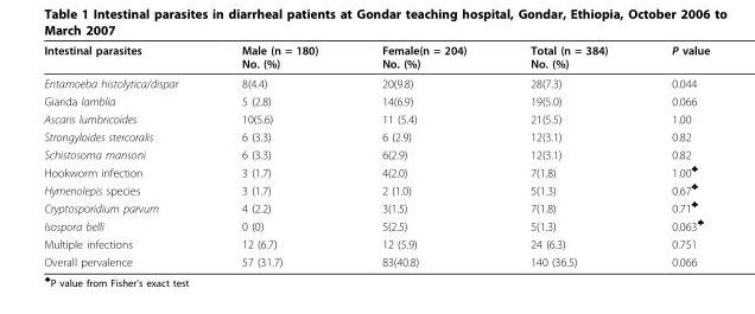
<table><thead><tr><td>Intestinal parasites</td><td>Male (n = 180) No. (%)</td><td>Female(n = 204) No. (%)</td><td>Total (n = 384) No. (%)</td><td>P value</td></tr></thead><tbody><tr><td>Entamoeba histolytica/dispar</td><td>8(4.4)</td><td>20(9.8)</td><td>28(7.3)</td><td>0.044</td></tr><tr><td>Giarida lamblia</td><td>5 (2.8)</td><td>14(6.9)</td><td>19(5.0)</td><td>0.066</td></tr><tr><td>Ascaris lumbricoides</td><td>10(5.6)</td><td>11 (5.4)</td><td>21(5.5)</td><td>1.00</td></tr><tr><td>Strongyloides stercoralis</td><td>6 (3.3)</td><td>6 (2.9)</td><td>12(3.1)</td><td>0.82</td></tr><tr><td>Schistosoma mansoni</td><td>6 (3.3)</td><td>6(2.9)</td><td>12(3.1)</td><td>0.82</td></tr><tr><td>Hookworm infection</td><td>3 (1.7)</td><td>4(2.0)</td><td>7(1.8)</td><td>1.00<sup>♣</sup></td></tr><tr><td>Hymenolepis species</td><td>3 (1.7)</td><td>2 (1.0)</td><td>5(1.3)</td><td>0.67<sup>♣</sup></td></tr><tr><td>Cryptosporidium parvum</td><td>4 (2.2)</td><td>3(1.5)</td><td>7(1.8)</td><td>0.71<sup>♣</sup></td></tr><tr><td>Isospora belli</td><td>0 (0)</td><td>5(2.5)</td><td>5(1.3)</td><td>0.063<sup>♣</sup></td></tr><tr><td>Multiple infections</td><td>12 (6.7)</td><td>12 (5.9)</td><td>24 (6.3)</td><td>0.751</td></tr><tr><td>Overall pervalence</td><td>57 (31.7)</td><td>83(40.8)</td><td>140 (36.5)</td><td>0.066</td></tr></tbody></table>